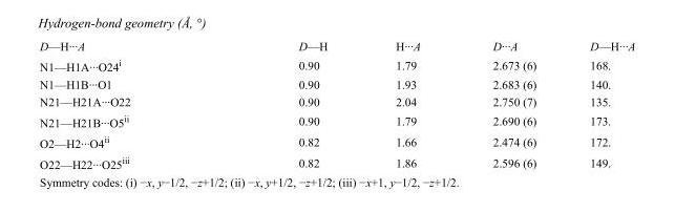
<table><tbody><tr><td>D—H···A</td><td>D—H</td><td>H···A</td><td>D···A</td><td>D—H···A</td></tr><tr><td>N1—H1A···O24<sup>i</sup></td><td>0.90</td><td>1.79</td><td>2.673 (6)</td><td>168.</td></tr><tr><td>N1—H1B···O1</td><td>0.90</td><td>1.93</td><td>2.683 (6)</td><td>140.</td></tr><tr><td>N21—H21A···O22</td><td>0.90</td><td>2.04</td><td>2.750 (7)</td><td>135.</td></tr><tr><td>N21—H21B···O5<sup>ii</sup></td><td>0.90</td><td>1.79</td><td>2.690 (6)</td><td>173.</td></tr><tr><td>O2—H2···O4<sup>ii</sup></td><td>0.82</td><td>1.66</td><td>2.474 (6)</td><td>172.</td></tr><tr><td>O22—H22···O25<sup>iii</sup></td><td>0.82</td><td>1.86</td><td>2.596 (6)</td><td>149.</td></tr></tbody></table>